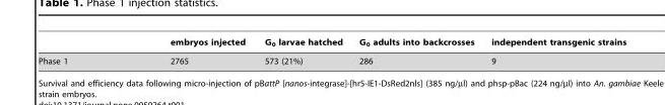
<table><thead><tr><td></td><td>embryos injected</td><td>G<sub>0</sub> larvae hatched</td><td>G<sub>0</sub> adults into backcrosses</td><td>independent transgenic strains</td></tr></thead><tbody><tr><td>Phase 1</td><td>2765</td><td>573 (21%)</td><td>286</td><td>9</td></tr></tbody></table>